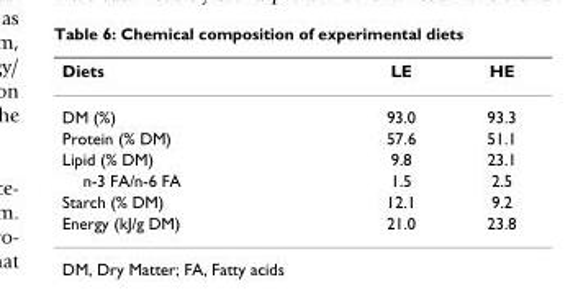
<table><thead><tr><td>Diets</td><td>LE</td><td>HE</td></tr></thead><tbody><tr><td>DM (%)</td><td>93.0</td><td>93.3</td></tr><tr><td>Protein (% DM)</td><td>57.6</td><td>51.1</td></tr><tr><td>Lipid (% DM)</td><td>9.8</td><td>23.1</td></tr><tr><td>n-3 FA/n-6 FA</td><td>1.5</td><td>2.5</td></tr><tr><td>Starch (% DM)</td><td>12.1</td><td>9.2</td></tr><tr><td>Energy (kJ/g DM)</td><td>21.0</td><td>23.8</td></tr></tbody></table>